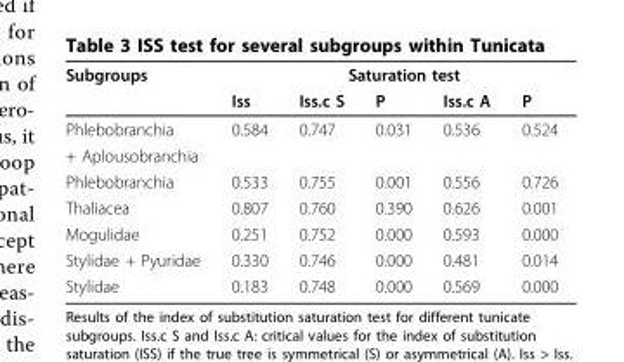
<table><thead><tr><td rowspan="2">Subgroups</td><td colspan="5">Saturation test</td></tr><tr><td>Iss</td><td>Iss.c S</td><td>P</td><td>Iss.c A</td><td>P</td></tr></thead><tbody><tr><td>Phlebobranchia</td><td>0.584</td><td>0.747</td><td>0.031</td><td>0.536</td><td>0.524</td></tr><tr><td colspan="6">+ Aplousobranchia</td></tr><tr><td>Phlebobranchia</td><td>0.533</td><td>0.755</td><td>0.001</td><td>0.556</td><td>0.726</td></tr><tr><td>Thaliacea</td><td>0.807</td><td>0.760</td><td>0.390</td><td>0.626</td><td>0.001</td></tr><tr><td>Mogulidae</td><td>0.251</td><td>0.752</td><td>0.000</td><td>0.593</td><td>0.000</td></tr><tr><td>Stylidae + Pyuridae</td><td>0.330</td><td>0.746</td><td>0.000</td><td>0.481</td><td>0.014</td></tr><tr><td>Stylidae</td><td>0.183</td><td>0.748</td><td>0.000</td><td>0.569</td><td>0.000</td></tr></tbody></table>